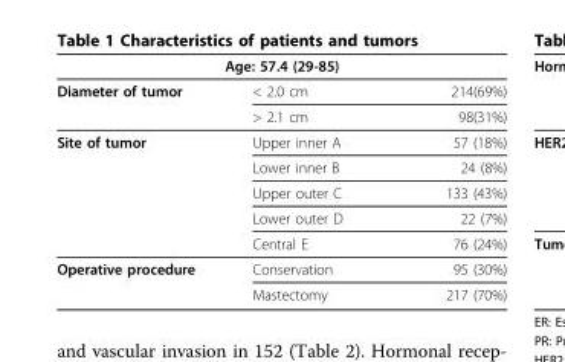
<table><thead><tr><td colspan="3">Age: 57.4 (29-85)</td></tr><tr><td>Diameter of tumor</td><td>&lt; 2.0 cm</td><td>214(69%)</td></tr></thead><tbody><tr><td></td><td>&gt; 2.1 cm</td><td>98(31%)</td></tr><tr><td rowspan="5">Site of tumor</td><td>Upper inner A</td><td>57 (18%)</td></tr><tr><td>Lower inner B</td><td>24 (8%)</td></tr><tr><td>Upper outer C</td><td>133 (43%)</td></tr><tr><td>Lower outer D</td><td>22 (7%)</td></tr><tr><td>Central E</td><td>76 (24%)</td></tr><tr><td rowspan="2">Operative procedure</td><td>Conservation</td><td>95 (30%)</td></tr><tr><td>Mastectomy</td><td>217 (70%)</td></tr></tbody></table>